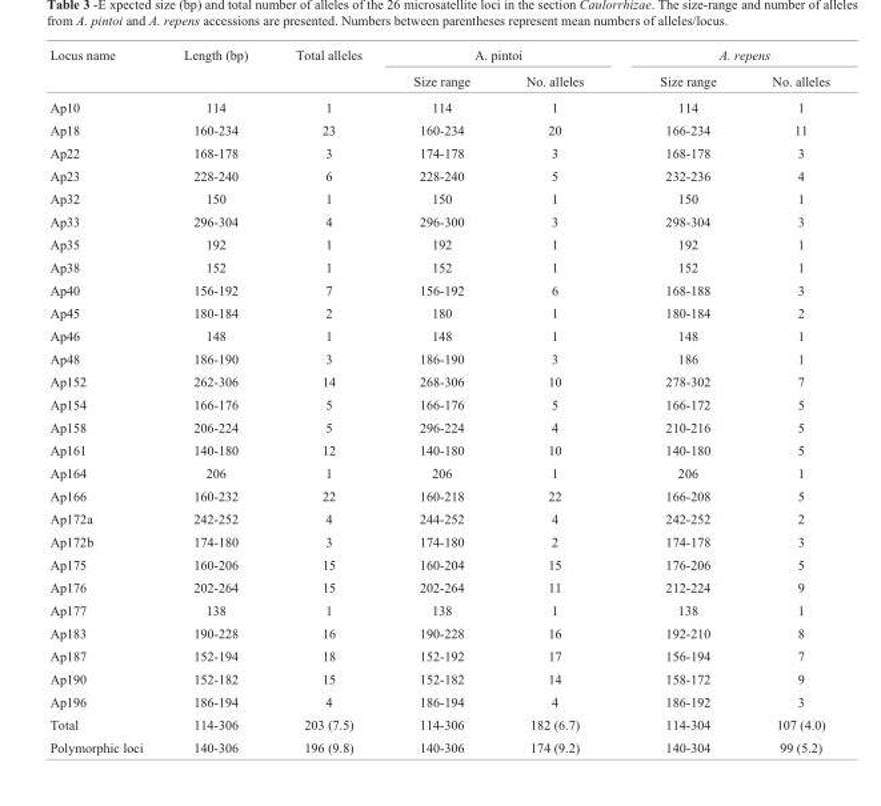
<table><thead><tr><td rowspan="2">Locus name</td><td rowspan="2">Length (bp)</td><td rowspan="2">Total alleles</td><td colspan="2">A. pintoi</td><td colspan="2">A. repens</td></tr><tr><td>Size range</td><td>No. alleles</td><td>Size range</td><td>No. alleles</td></tr></thead><tbody><tr><td>Ap10</td><td>114</td><td>1</td><td>114</td><td>1</td><td>114</td><td>1</td></tr><tr><td>Ap18</td><td>160-234</td><td>23</td><td>160-234</td><td>20</td><td>166-234</td><td>11</td></tr><tr><td>Ap22</td><td>168-178</td><td>3</td><td>174-178</td><td>3</td><td>168-178</td><td>3</td></tr><tr><td>Ap23</td><td>228-240</td><td>6</td><td>228-240</td><td>5</td><td>232-236</td><td>4</td></tr><tr><td>Ap32</td><td>150</td><td>1</td><td>150</td><td>1</td><td>150</td><td>1</td></tr><tr><td>Ap33</td><td>296-304</td><td>4</td><td>296-300</td><td>3</td><td>298-304</td><td>3</td></tr><tr><td>Ap35</td><td>192</td><td>1</td><td>192</td><td>1</td><td>192</td><td>1</td></tr><tr><td>Ap38</td><td>152</td><td>1</td><td>152</td><td>1</td><td>152</td><td>1</td></tr><tr><td>Ap40</td><td>156-192</td><td>7</td><td>156-192</td><td>6</td><td>168-188</td><td>3</td></tr><tr><td>Ap45</td><td>180-184</td><td>2</td><td>180</td><td>1</td><td>180-184</td><td>2</td></tr><tr><td>Ap46</td><td>148</td><td>1</td><td>148</td><td>1</td><td>148</td><td>1</td></tr><tr><td>Ap48</td><td>186-190</td><td>3</td><td>186-190</td><td>3</td><td>186</td><td>1</td></tr><tr><td>Ap152</td><td>262-306</td><td>14</td><td>268-306</td><td>10</td><td>278-302</td><td>7</td></tr><tr><td>Ap154</td><td>166-176</td><td>5</td><td>166-176</td><td>5</td><td>166-172</td><td>5</td></tr><tr><td>Ap158</td><td>206-224</td><td>5</td><td>296-224</td><td>4</td><td>210-216</td><td>5</td></tr><tr><td>Ap161</td><td>140-180</td><td>12</td><td>140-180</td><td>10</td><td>140-180</td><td>5</td></tr><tr><td>Ap164</td><td>206</td><td>1</td><td>206</td><td>1</td><td>206</td><td>1</td></tr><tr><td>Ap166</td><td>160-232</td><td>22</td><td>160-218</td><td>22</td><td>166-208</td><td>5</td></tr><tr><td>Ap172a</td><td>242-252</td><td>4</td><td>244-252</td><td>4</td><td>242-252</td><td>2</td></tr><tr><td>Ap172b</td><td>174-180</td><td>3</td><td>174-180</td><td>2</td><td>174-178</td><td>3</td></tr><tr><td>Ap175</td><td>160-206</td><td>15</td><td>160-204</td><td>15</td><td>176-206</td><td>5</td></tr><tr><td>Ap176</td><td>202-264</td><td>15</td><td>202-264</td><td>11</td><td>212-224</td><td>9</td></tr><tr><td>Ap177</td><td>138</td><td>1</td><td>138</td><td>1</td><td>138</td><td>1</td></tr><tr><td>Ap183</td><td>190-228</td><td>16</td><td>190-228</td><td>16</td><td>192-210</td><td>8</td></tr><tr><td>Ap187</td><td>152-194</td><td>18</td><td>152-192</td><td>17</td><td>156-194</td><td>7</td></tr><tr><td>Ap190</td><td>152-182</td><td>15</td><td>152-182</td><td>14</td><td>158-172</td><td>9</td></tr><tr><td>Ap196</td><td>186-194</td><td>4</td><td>186-194</td><td>4</td><td>186-192</td><td>3</td></tr><tr><td>Total</td><td>114-306</td><td>203 (7.5)</td><td>114-306</td><td>182 (6.7)</td><td>114-304</td><td>107 (4.0)</td></tr><tr><td>Polymorphic loci</td><td>140-306</td><td>196 (9.8)</td><td>140-306</td><td>174 (9.2)</td><td>140-304</td><td>99 (5.2)</td></tr></tbody></table>